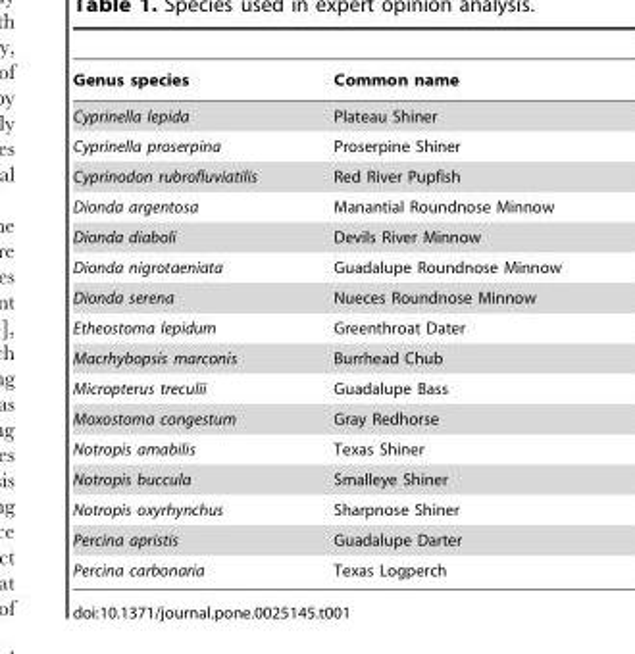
<table><thead><tr><td>Genus species</td><td>Common name</td></tr></thead><tbody><tr><td>Cyprinella lepida</td><td>Plateau Shiner</td></tr><tr><td>Cyprinella proserpina</td><td>Proserpine Shiner</td></tr><tr><td>Cyprinodon rubrofluviatilis</td><td>Red River Pupfish</td></tr><tr><td>Dionda argentosa</td><td>Manantial Roundnose Minnow</td></tr><tr><td>Dionda diaboli</td><td>Devils River Minnow</td></tr><tr><td>Dionda nigrotaeniata</td><td>Guadalupe Roundnose Minnow</td></tr><tr><td>Dionda serena</td><td>Nueces Roundnose Minnow</td></tr><tr><td>Etheostoma lepidum</td><td>Greenthroat Dater</td></tr><tr><td>Macrhybopsis marconis</td><td>Burrhead Chub</td></tr><tr><td>Micropterus treculii</td><td>Guadalupe Bass</td></tr><tr><td>Moxostoma congestum</td><td>Gray Redhorse</td></tr><tr><td>Notropis amabilis</td><td>Texas Shiner</td></tr><tr><td>Notropis buccula</td><td>Smalleye Shiner</td></tr><tr><td>Notropis oxyrhynchus</td><td>Sharpnose Shiner</td></tr><tr><td>Percina apristis</td><td>Guadalupe Darter</td></tr><tr><td>Percina carbonaria</td><td>Texas Logperch</td></tr></tbody></table>